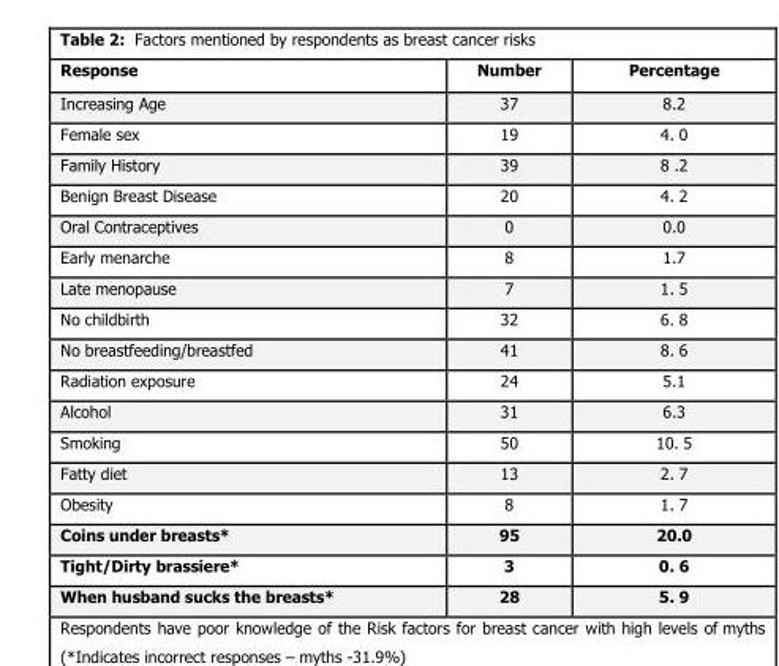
<table><thead><tr><td>Response</td><td>Number</td><td>Percentage</td></tr></thead><tbody><tr><td>Increasing Age</td><td>37</td><td>8.2</td></tr><tr><td>Female sex</td><td>19</td><td>4. 0</td></tr><tr><td>Family History</td><td>39</td><td>8 .2</td></tr><tr><td>Benign Breast Disease</td><td>20</td><td>4. 2</td></tr><tr><td>Oral Contraceptives</td><td>0</td><td>0.0</td></tr><tr><td>Early menarche</td><td>8</td><td>1.7</td></tr><tr><td>Late menopause</td><td>7</td><td>1. 5</td></tr><tr><td>No childbirth</td><td>32</td><td>6. 8</td></tr><tr><td>No breastfeeding/breastfed</td><td>41</td><td>8. 6</td></tr><tr><td>Radiation exposure</td><td>24</td><td>5.1</td></tr><tr><td>Alcohol</td><td>31</td><td>6.3</td></tr><tr><td>Smoking</td><td>50</td><td>10. 5</td></tr><tr><td>Fatty diet</td><td>13</td><td>2. 7</td></tr><tr><td>Obesity</td><td>8</td><td>1. 7</td></tr><tr><td>Coins under breasts*</td><td>95</td><td>20.0</td></tr><tr><td>Tight/Dirty brassiere*</td><td>3</td><td>0. 6</td></tr><tr><td>When husband sucks the breasts*</td><td>28</td><td>5. 9</td></tr></tbody></table>